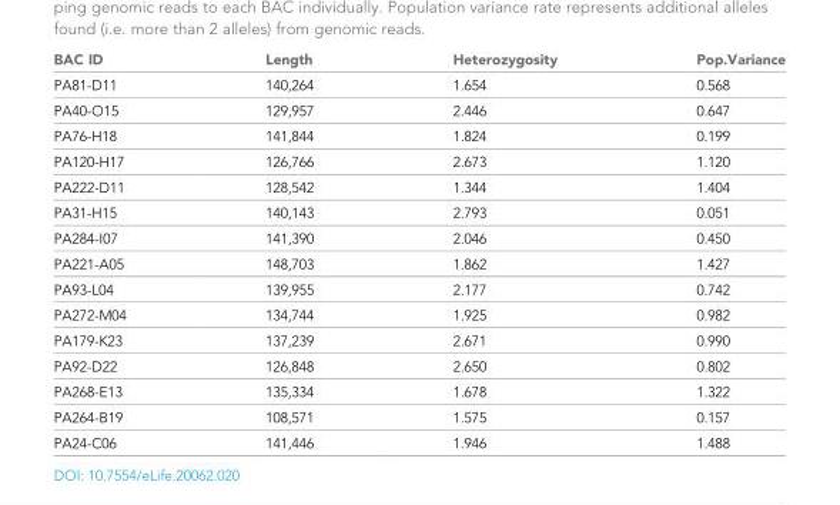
<table><thead><tr><td>BAC ID</td><td>Length</td><td>Heterozygosity</td><td>Pop.Variance</td></tr></thead><tbody><tr><td>PA81-D11</td><td>140,264</td><td>1.654</td><td>0.568</td></tr><tr><td>PA40-O15</td><td>129,957</td><td>2.446</td><td>0.647</td></tr><tr><td>PA76-H18</td><td>141,844</td><td>1.824</td><td>0.199</td></tr><tr><td>PA120-H17</td><td>126,766</td><td>2.673</td><td>1.120</td></tr><tr><td>PA222-D11</td><td>128,542</td><td>1.344</td><td>1.404</td></tr><tr><td>PA31-H15</td><td>140,143</td><td>2.793</td><td>0.051</td></tr><tr><td>PA284-I07</td><td>141,390</td><td>2.046</td><td>0.450</td></tr><tr><td>PA221-A05</td><td>148,703</td><td>1.862</td><td>1.427</td></tr><tr><td>PA93-L04</td><td>139,955</td><td>2.177</td><td>0.742</td></tr><tr><td>PA272-M04</td><td>134,744</td><td>1.925</td><td>0.982</td></tr><tr><td>PA179-K23</td><td>137,239</td><td>2.671</td><td>0.990</td></tr><tr><td>PA92-D22</td><td>126,848</td><td>2.650</td><td>0.802</td></tr><tr><td>PA268-E13</td><td>135,334</td><td>1.678</td><td>1.322</td></tr><tr><td>PA264-B19</td><td>108,571</td><td>1.575</td><td>0.157</td></tr><tr><td>PA24-C06</td><td>141,446</td><td>1.946</td><td>1.488</td></tr></tbody></table>